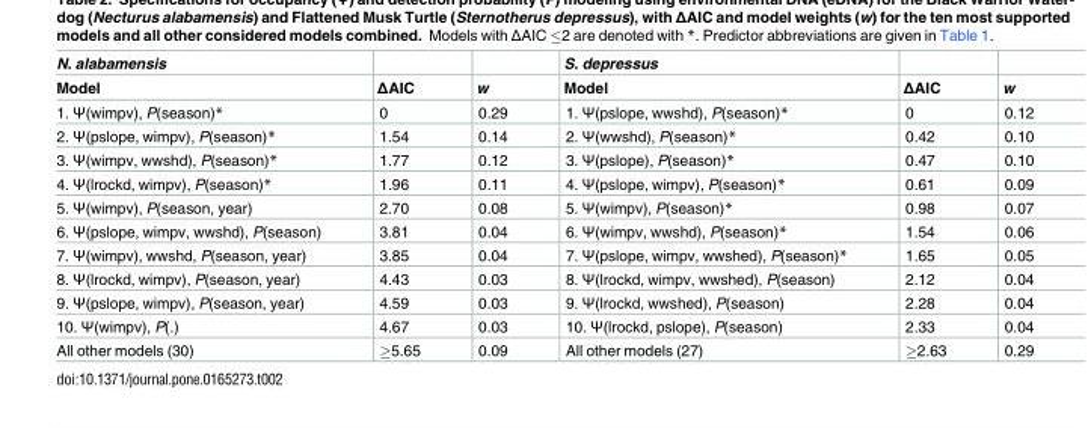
<table><thead><tr><td rowspan="2">N. alabamensis Model</td><td rowspan="2">ΔAIC</td><td rowspan="2">w</td><td rowspan="2">S. depressus Model</td><td rowspan="2">ΔAIC</td><td rowspan="2">w</td></tr><tr></tr></thead><tbody><tr><td>1. Ψ(wimpv), P(season)*</td><td>0</td><td>0.29</td><td>1. Ψ(pslope, wwshd), P(season)*</td><td>0</td><td>0.12</td></tr><tr><td>2. Ψ(pslope, wimpv), P(season)*</td><td>1.54</td><td>0.14</td><td>2. Ψ(wwshd), P(season)*</td><td>0.42</td><td>0.10</td></tr><tr><td>3. Ψ(wimpv, wwshd), P(season)*</td><td>1.77</td><td>0.12</td><td>3. Ψ(pslope), P(season)*</td><td>0.47</td><td>0.10</td></tr><tr><td>4. Ψ(lrockd, wimpv), P(season)*</td><td>1.96</td><td>0.11</td><td>4. Ψ(pslope, wimpv), P(season)*</td><td>0.61</td><td>0.09</td></tr><tr><td>5. Ψ(wimpv), P(season, year)</td><td>2.70</td><td>0.08</td><td>5. Ψ(wimpv), P(season)*</td><td>0.98</td><td>0.07</td></tr><tr><td>6. Ψ(pslope, wimpv, wwshd), P(season)</td><td>3.81</td><td>0.04</td><td>6. Ψ(wimpv, wwshd), P(season)*</td><td>1.54</td><td>0.06</td></tr><tr><td>7. Ψ(wimpv), wwshd, P(season, year)</td><td>3.85</td><td>0.04</td><td>7. Ψ(pslope, wimpv, wwshed), P(season)*</td><td>1.65</td><td>0.05</td></tr><tr><td>8. Ψ(lrockd, wimpv), P(season, year)</td><td>4.43</td><td>0.03</td><td>8. Ψ(lrockd, wimpv, wwshed), P(season)</td><td>2.12</td><td>0.04</td></tr><tr><td>9. Ψ(pslope, wimpv), P(season, year)</td><td>4.59</td><td>0.03</td><td>9. Ψ(lrockd, wwshed), P(season)</td><td>2.28</td><td>0.04</td></tr><tr><td>10. Ψ(wimpv), P(.)</td><td>4.67</td><td>0.03</td><td>10. Ψ(lrockd, pslope), P(season)</td><td>2.33</td><td>0.04</td></tr><tr><td>All other models (30)</td><td>≥5.65</td><td>0.09</td><td>All other models (27)</td><td>≥2.63</td><td>0.29</td></tr></tbody></table>